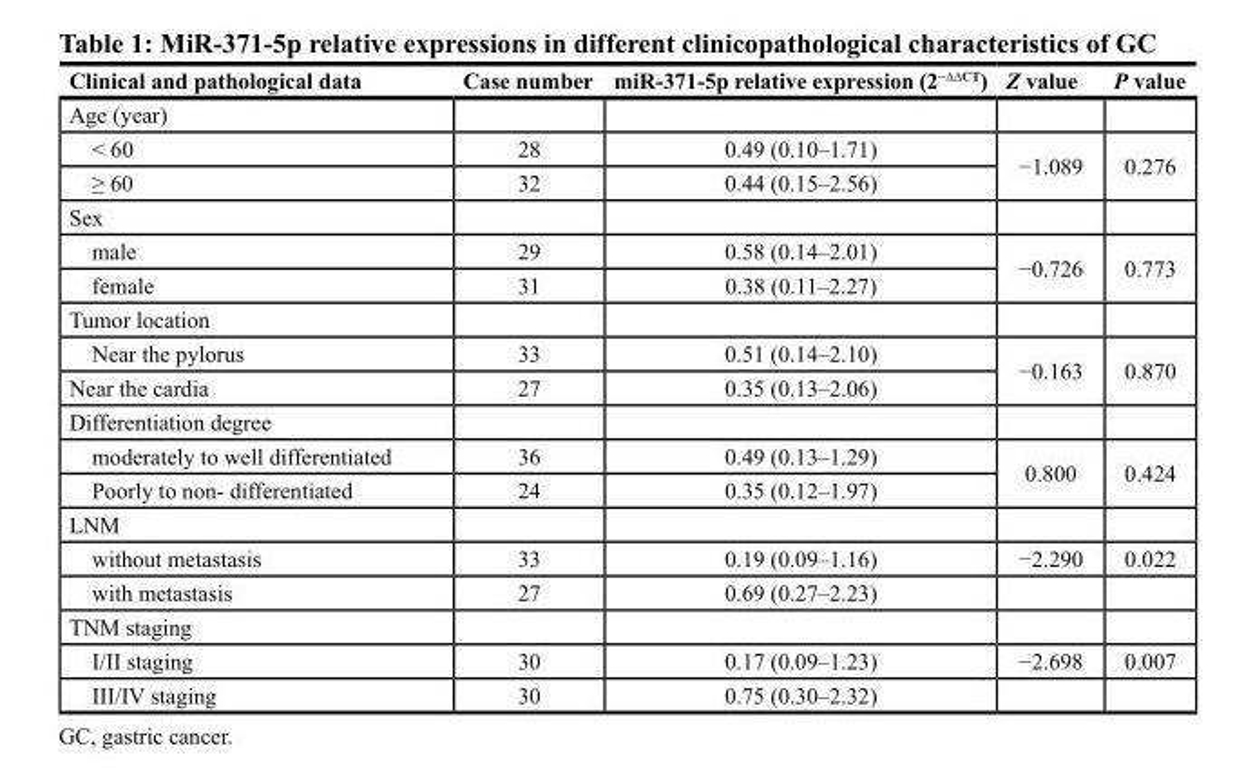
<table><thead><tr><td>Clinical and pathological data</td><td>Case number</td><td>miR-371-5p relative expression (2−∆∆CT)</td><td>Z value</td><td>P value</td></tr></thead><tbody><tr><td colspan="5">Age (year)</td></tr><tr><td>&lt; 60</td><td>28</td><td>0.49 (0.10–1.71)</td><td rowspan="2">−1.089</td><td rowspan="2">0.276</td></tr><tr><td>≥ 60</td><td>32</td><td>0.44 (0.15–2.56)</td></tr><tr><td colspan="5">Sex</td></tr><tr><td>male</td><td>29</td><td>0.58 (0.14–2.01)</td><td rowspan="2">−0.726</td><td rowspan="2">0.773</td></tr><tr><td>female</td><td>31</td><td>0.38 (0.11–2.27)</td></tr><tr><td colspan="5">Tumor location</td></tr><tr><td>Near the pylorus</td><td>33</td><td>0.51 (0.14–2.10)</td><td rowspan="2">−0.163</td><td rowspan="2">0.870</td></tr><tr><td>Near the cardia</td><td>27</td><td>0.35 (0.13–2.06)</td></tr><tr><td colspan="5">Differentiation degree</td></tr><tr><td>moderately to well differentiated</td><td>36</td><td>0.49 (0.13–1.29)</td><td rowspan="2">0.800</td><td rowspan="2">0.424</td></tr><tr><td>Poorly to non- differentiated</td><td>24</td><td>0.35 (0.12–1.97)</td></tr><tr><td colspan="5">LNM</td></tr><tr><td>without metastasis</td><td>33</td><td>0.19 (0.09–1.16)</td><td>−2.290</td><td>0.022</td></tr><tr><td>with metastasis</td><td>27</td><td>0.69 (0.27–2.23)</td><td></td><td></td></tr><tr><td colspan="5">TNM staging</td></tr><tr><td>I/II staging</td><td>30</td><td>0.17 (0.09–1.23)</td><td>−2.698</td><td>0.007</td></tr><tr><td>III/IV staging</td><td>30</td><td>0.75 (0.30–2.32)</td><td></td><td></td></tr></tbody></table>